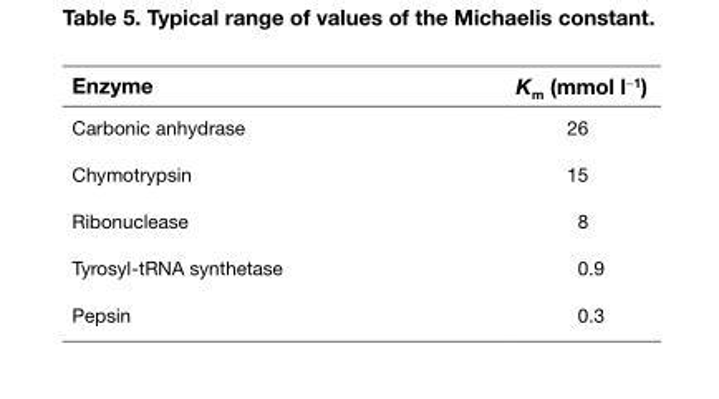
<table><thead><tr><td>Enzyme</td><td>K<sub>m</sub> (mmol l<sup>−1</sup>)</td></tr></thead><tbody><tr><td>Carbonic anhydrase</td><td>26</td></tr><tr><td>Chymotrypsin</td><td>15</td></tr><tr><td>Ribonuclease</td><td>8</td></tr><tr><td>Tyrosyl-tRNA synthetase</td><td>0.9</td></tr><tr><td>Pepsin</td><td>0.3</td></tr></tbody></table>